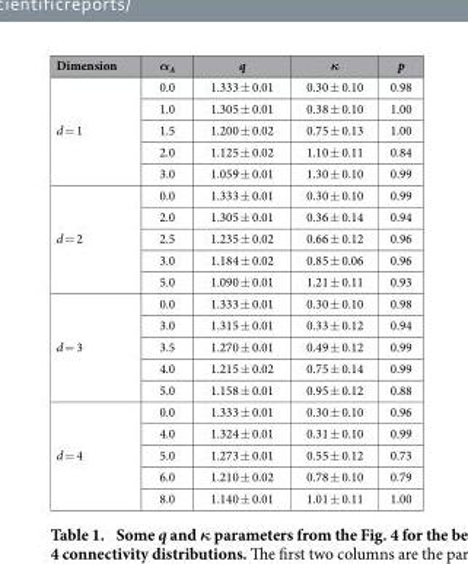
<table><thead><tr><td>Dimension</td><td>α<sub>A</sub></td><td>q</td><td>κ</td><td>p</td></tr></thead><tbody><tr><td rowspan="5">d = 1</td><td>0.0</td><td>1.333 ± 0.01</td><td>0.30 ± 0.10</td><td>0.98</td></tr><tr><td>1.0</td><td>1.305 ± 0.01</td><td>0.38 ± 0.10</td><td>1.00</td></tr><tr><td>1.5</td><td>1.200 ± 0.02</td><td>0.75 ± 0.13</td><td>1.00</td></tr><tr><td>2.0</td><td>1.125 ± 0.02</td><td>1.10 ± 0.11</td><td>0.84</td></tr><tr><td>3.0</td><td>1.059 ± 0.01</td><td>1.30 ± 0.10</td><td>0.99</td></tr><tr><td rowspan="5">d = 2</td><td>0.0</td><td>1.333 ± 0.01</td><td>0.30 ± 0.10</td><td>0.99</td></tr><tr><td>2.0</td><td>1.305 ± 0.01</td><td>0.36 ± 0.14</td><td>0.94</td></tr><tr><td>2.5</td><td>1.235 ± 0.02</td><td>0.66 ± 0.12</td><td>0.96</td></tr><tr><td>3.0</td><td>1.184 ± 0.02</td><td>0.85 ± 0.06</td><td>0.96</td></tr><tr><td>5.0</td><td>1.090 ± 0.01</td><td>1.21 ± 0.11</td><td>0.93</td></tr><tr><td rowspan="5">d = 3</td><td>0.0</td><td>1.333 ± 0.01</td><td>0.30 ± 0.10</td><td>0.98</td></tr><tr><td>3.0</td><td>1.315 ± 0.01</td><td>0.33 ± 0.12</td><td>0.94</td></tr><tr><td>3.5</td><td>1.270 ± 0.01</td><td>0.49 ± 0.12</td><td>0.99</td></tr><tr><td>4.0</td><td>1.215 ± 0.02</td><td>0.75 ± 0.14</td><td>0.99</td></tr><tr><td>5.0</td><td>1.158 ± 0.01</td><td>0.95 ± 0.12</td><td>0.88</td></tr><tr><td rowspan="5">d = 4</td><td>0.0</td><td>1.333 ± 0.01</td><td>0.30 ± 0.10</td><td>0.96</td></tr><tr><td>4.0</td><td>1.324 ± 0.01</td><td>0.31 ± 0.10</td><td>0.99</td></tr><tr><td>5.0</td><td>1.273 ± 0.01</td><td>0.55 ± 0.12</td><td>0.73</td></tr><tr><td>6.0</td><td>1.210 ± 0.02</td><td>0.78 ± 0.10</td><td>0.79</td></tr><tr><td>8.0</td><td>1.140 ± 0.01</td><td>1.01 ± 0.11</td><td>1.00</td></tr></tbody></table>